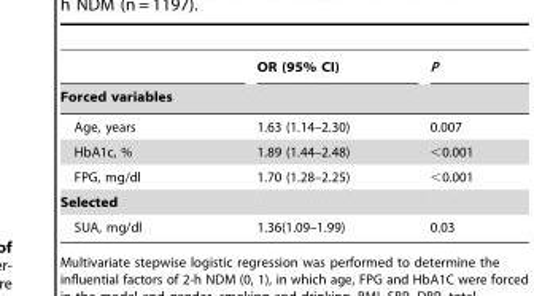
<table><thead><tr><td></td><td>OR (95% CI)</td><td>P</td></tr><tr><td colspan="3">Forced variables</td></tr></thead><tbody><tr><td>Age, years</td><td>1.63 (1.14–2.30)</td><td>0.007</td></tr><tr><td>HbA1c, %</td><td>1.89 (1.44–2.48)</td><td>&lt;0.001</td></tr><tr><td>FPG, mg/dl</td><td>1.70 (1.28–2.25)</td><td>&lt;0.001</td></tr><tr><td colspan="3">Selected</td></tr><tr><td>SUA, mg/dl</td><td>1.36(1.09–1.99)</td><td>0.03</td></tr></tbody></table>